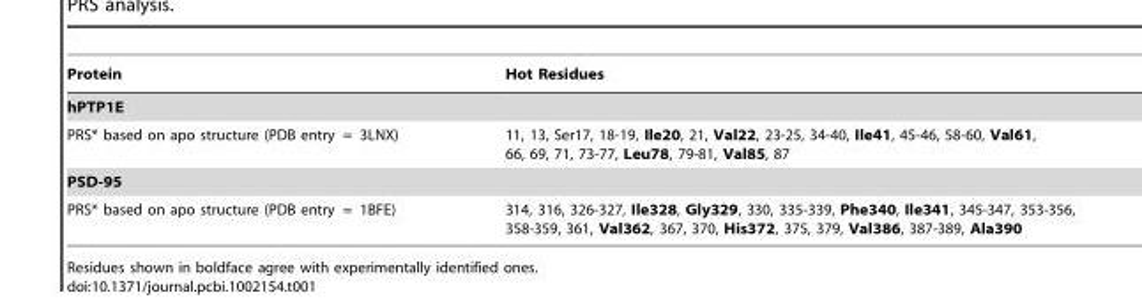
<table><thead><tr><td>Protein</td><td>Hot Residues</td></tr></thead><tbody><tr><td colspan="2">hPTP1E</td></tr><tr><td>PRS* based on apo structure (PDB entry = 3LNX)</td><td>11, 13, Ser17, 18-19, Ile20, 21, Val22, 23-25, 34-40, Ile41, 45-46, 58-60, Val61, 66, 69, 71, 73-77, Leu78, 79-81, Val85, 87</td></tr><tr><td colspan="2">PSD-95</td></tr><tr><td>PRS* based on apo structure (PDB entry = 1BFE)</td><td>314, 316, 326-327, Ile328, Gly329, 330, 335-339, Phe340, Ile341, 345-347, 353-356, 358-359, 361, Val362, 367, 370, His372, 375, 379, Val386, 387-389, Ala390</td></tr></tbody></table>